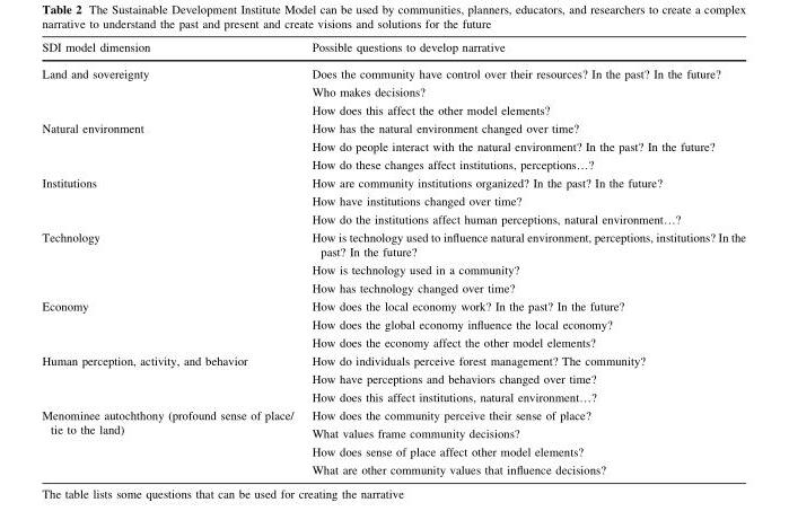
<table><thead><tr><td>SDI model dimension</td><td>Possible questions to develop narrative</td></tr></thead><tbody><tr><td>Land and sovereignty</td><td>Does the community have control over their resources? In the past? In the future? Who makes decisions? How does this affect the other model elements?</td></tr><tr><td>Natural environment</td><td>How has the natural environment changed over time? How do people interact with the natural environment? In the past? In the future? How do these changes affect institutions, perceptions…?</td></tr><tr><td>Institutions</td><td>How are community institutions organized? In the past? In the future? How have institutions changed over time? How do the institutions affect human perceptions, natural environment…?</td></tr><tr><td>Technology</td><td>How is technology used to influence natural environment, perceptions, institutions? In the past? In the future? How is technology used in a community? How has technology changed over time?</td></tr><tr><td>Economy</td><td>How does the local economy work? In the past? In the future? How does the global economy influence the local economy? How does the economy affect the other model elements?</td></tr><tr><td>Human perception, activity, and behavior</td><td>How do individuals perceive forest management? The community? How have perceptions and behaviors changed over time? How does this affect institutions, natural environment…?</td></tr><tr><td>Menominee autochthony (profound sense of place/ tie to the land)</td><td>How does the community perceive their sense of place? What values frame community decisions? How does sense of place affect other model elements? What are other community values that influence decisions?</td></tr></tbody></table>